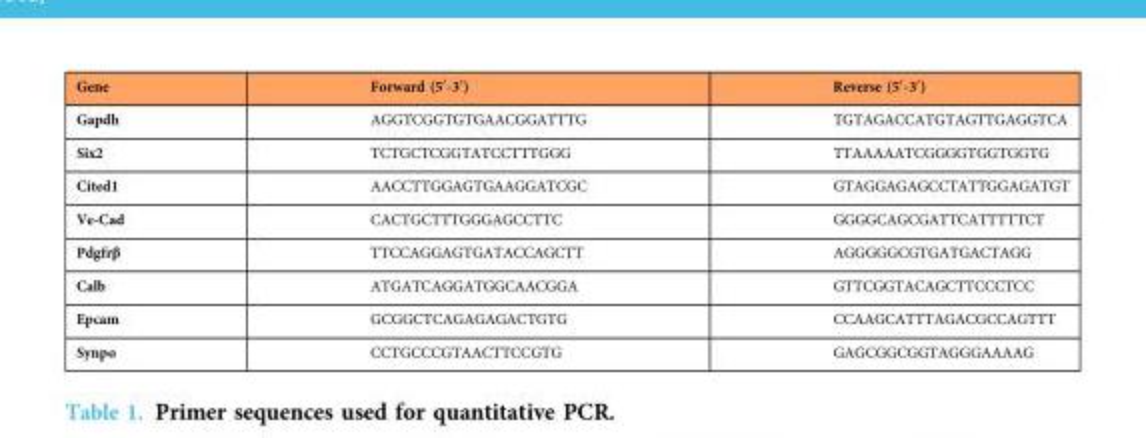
<table><thead><tr><td>Gene</td><td>Forward (5′-3′)</td><td>Reverse (5′-3′)</td></tr></thead><tbody><tr><td>Gapdh</td><td>AGGTCGGTGTGAACGGATTTG</td><td>TGTAGACCATGTAGTTGAGGTCA</td></tr><tr><td>Six2</td><td>TCTGCTCGGTATCCTTTGGG</td><td>TTAAAAATCGGGGTGGTGGTG</td></tr><tr><td>Cited1</td><td>AACCTTGGAGTGAAGGATCGC</td><td>GTAGGAGAGCCTATTGGAGATGT</td></tr><tr><td>Ve-Cad</td><td>CACTGCTTTGGGAGCCTTC</td><td>GGGGCAGCGATTCATTTTTCT</td></tr><tr><td>Pdgfrβ</td><td>TTCCAGGAGTGATACCAGCTT</td><td>AGGGGGCGTGATGACTAGG</td></tr><tr><td>Calb</td><td>ATGATCAGGATGGCAACGGA</td><td>GTTCGGTACAGCTTCCCTCC</td></tr><tr><td>Epcam</td><td>GCGGCTCAGAGAGACTGTG</td><td>CCAAGCATTTAGACGCCAGTTT</td></tr><tr><td>Synpo</td><td>CCTGCCCGTAACTTCCGTG</td><td>GAGCGGCGGTAGGGAAAAG</td></tr></tbody></table>